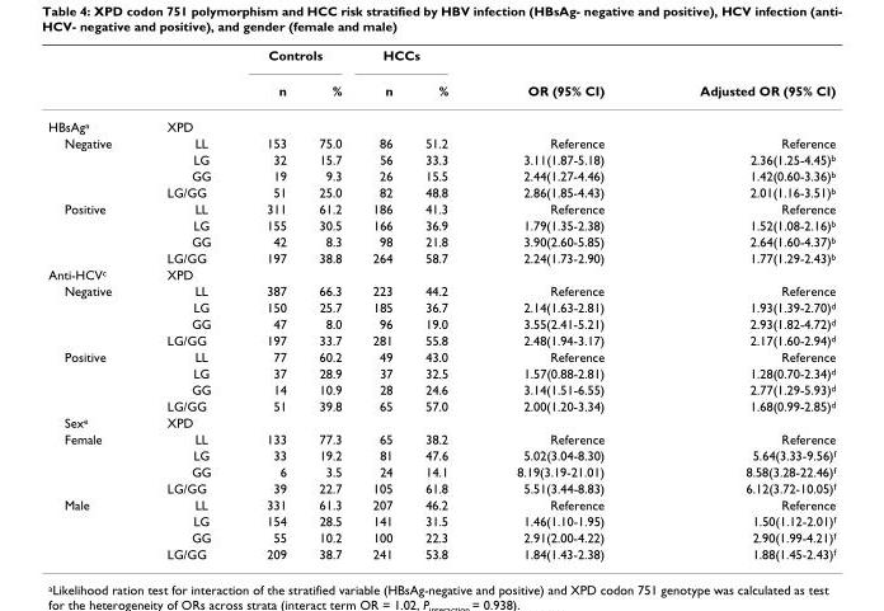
<table><thead><tr><td rowspan="2"></td><td rowspan="2"></td><td colspan="2">Controls</td><td colspan="2">HCCs</td><td rowspan="2">OR (95% CI)</td><td rowspan="2">Adjusted OR (95% CI)</td></tr><tr><td>n</td><td>%</td><td>n</td><td>%</td></tr></thead><tbody><tr><td>HBsAg<sup>a</sup></td><td>XPD</td><td></td><td></td><td></td><td></td><td></td><td></td></tr><tr><td rowspan="4">Negative</td><td>LL</td><td>153</td><td>75.0</td><td>86</td><td>51.2</td><td>Reference</td><td>Reference</td></tr><tr><td>LG</td><td>32</td><td>15.7</td><td>56</td><td>33.3</td><td>3.11(1.87-5.18)</td><td>2.36(1.25-4.45)<sup>b</sup></td></tr><tr><td>GG</td><td>19</td><td>9.3</td><td>26</td><td>15.5</td><td>2.44(1.27-4.46)</td><td>1.42(0.60-3.36)<sup>b</sup></td></tr><tr><td>LG/GG</td><td>51</td><td>25.0</td><td>82</td><td>48.8</td><td>2.86(1.85-4.43)</td><td>2.01(1.16-3.51)<sup>b</sup></td></tr><tr><td rowspan="4">Positive</td><td>LL</td><td>311</td><td>61.2</td><td>186</td><td>41.3</td><td>Reference</td><td>Reference</td></tr><tr><td>LG</td><td>155</td><td>30.5</td><td>166</td><td>36.9</td><td>1.79(1.35-2.38)</td><td>1.52(1.08-2.16)<sup>b</sup></td></tr><tr><td>GG</td><td>42</td><td>8.3</td><td>98</td><td>21.8</td><td>3.90(2.60-5.85)</td><td>2.64(1.60-4.37)<sup>b</sup></td></tr><tr><td>LG/GG</td><td>197</td><td>38.8</td><td>264</td><td>58.7</td><td>2.24(1.73-2.90)</td><td>1.77(1.29-2.43)<sup>b</sup></td></tr><tr><td>Anti-HCV<sup>c</sup></td><td>XPD</td><td></td><td></td><td></td><td></td><td></td><td></td></tr><tr><td rowspan="4">Negative</td><td>LL</td><td>387</td><td>66.3</td><td>223</td><td>44.2</td><td>Reference</td><td>Reference</td></tr><tr><td>LG</td><td>150</td><td>25.7</td><td>185</td><td>36.7</td><td>2.14(1.63-2.81)</td><td>1.93(1.39-2.70)<sup>d</sup></td></tr><tr><td>GG</td><td>47</td><td>8.0</td><td>96</td><td>19.0</td><td>3.55(2.41-5.21)</td><td>2.93(1.82-4.72)<sup>d</sup></td></tr><tr><td>LG/GG</td><td>197</td><td>33.7</td><td>281</td><td>55.8</td><td>2.48(1.94-3.17)</td><td>2.17(1.60-2.94)<sup>d</sup></td></tr><tr><td rowspan="4">Positive</td><td>LL</td><td>77</td><td>60.2</td><td>49</td><td>43.0</td><td>Reference</td><td>Reference</td></tr><tr><td>LG</td><td>37</td><td>28.9</td><td>37</td><td>32.5</td><td>1.57(0.88-2.81)</td><td>1.28(0.70-2.34)<sup>d</sup></td></tr><tr><td>GG</td><td>14</td><td>10.9</td><td>28</td><td>24.6</td><td>3.14(1.51-6.55)</td><td>2.77(1.29-5.93)<sup>d</sup></td></tr><tr><td>LG/GG</td><td>51</td><td>39.8</td><td>65</td><td>57.0</td><td>2.00(1.20-3.34)</td><td>1.68(0.99-2.85)<sup>d</sup></td></tr><tr><td>Sex<sup>e</sup></td><td>XPD</td><td></td><td></td><td></td><td></td><td></td><td></td></tr><tr><td rowspan="4">Female</td><td>LL</td><td>133</td><td>77.3</td><td>65</td><td>38.2</td><td>Reference</td><td>Reference</td></tr><tr><td>LG</td><td>33</td><td>19.2</td><td>81</td><td>47.6</td><td>5.02(3.04-8.30)</td><td>5.64(3.33-9.56)<sup>f</sup></td></tr><tr><td>GG</td><td>6</td><td>3.5</td><td>24</td><td>14.1</td><td>8.19(3.19-21.01)</td><td>8.58(3.28-22.46)<sup>f</sup></td></tr><tr><td>LG/GG</td><td>39</td><td>22.7</td><td>105</td><td>61.8</td><td>5.51(3.44-8.83)</td><td>6.12(3.72-10.05)<sup>f</sup></td></tr><tr><td rowspan="4">Male</td><td>LL</td><td>331</td><td>61.3</td><td>207</td><td>46.2</td><td>Reference</td><td>Reference</td></tr><tr><td>LG</td><td>154</td><td>28.5</td><td>141</td><td>31.5</td><td>1.46(1.10-1.95)</td><td>1.50(1.12-2.01)<sup>f</sup></td></tr><tr><td>GG</td><td>55</td><td>10.2</td><td>100</td><td>22.3</td><td>2.91(2.00-4.22)</td><td>2.90(1.99-4.21)<sup>f</sup></td></tr><tr><td>LG/GG</td><td>209</td><td>38.7</td><td>241</td><td>53.8</td><td>1.84(1.43-2.38)</td><td>1.88(1.45-2.43)<sup>f</sup></td></tr></tbody></table>